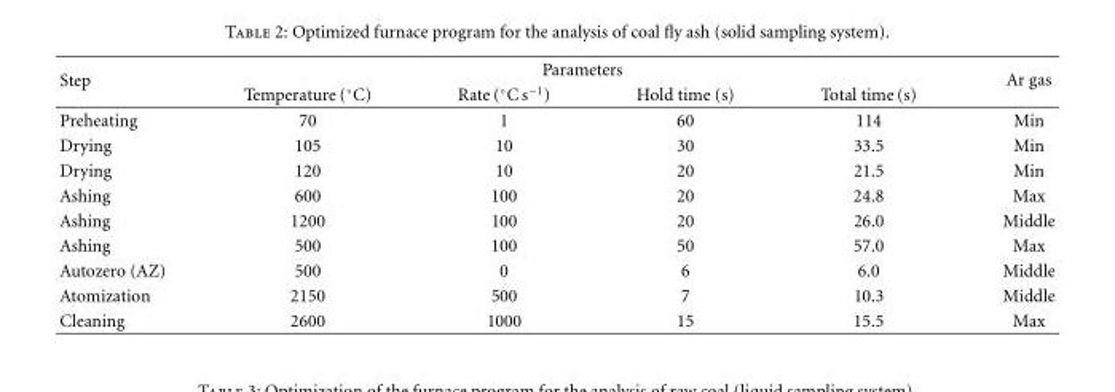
<table><thead><tr><td rowspan="2">Step</td><td colspan="4">Parameters</td><td rowspan="2">Ar gas</td></tr><tr><td>Temperature (◦C)</td><td>Rate (◦C s−1)</td><td>Hold time (s)</td><td>Total time (s)</td></tr></thead><tbody><tr><td>Preheating</td><td>70</td><td>1</td><td>60</td><td>114</td><td>Min</td></tr><tr><td>Drying</td><td>105</td><td>10</td><td>30</td><td>33.5</td><td>Min</td></tr><tr><td>Drying</td><td>120</td><td>10</td><td>20</td><td>21.5</td><td>Min</td></tr><tr><td>Ashing</td><td>600</td><td>100</td><td>20</td><td>24.8</td><td>Max</td></tr><tr><td>Ashing</td><td>1200</td><td>100</td><td>20</td><td>26.0</td><td>Middle</td></tr><tr><td>Ashing</td><td>500</td><td>100</td><td>50</td><td>57.0</td><td>Max</td></tr><tr><td>Autozero (AZ)</td><td>500</td><td>0</td><td>6</td><td>6.0</td><td>Middle</td></tr><tr><td>Atomization</td><td>2150</td><td>500</td><td>7</td><td>10.3</td><td>Middle</td></tr><tr><td>Cleaning</td><td>2600</td><td>1000</td><td>15</td><td>15.5</td><td>Max</td></tr></tbody></table>